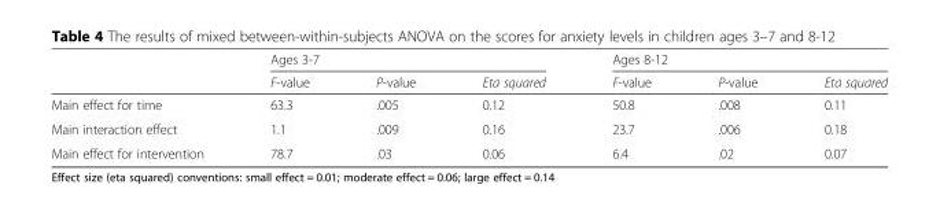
<table><thead><tr><td rowspan="2"></td><td colspan="3">Ages 3-7</td><td colspan="3">Ages 8-12</td></tr><tr><td>F-value</td><td>P-value</td><td>Eta squared</td><td>F-value</td><td>P-value</td><td>Eta squared</td></tr></thead><tbody><tr><td>Main effect for time</td><td>63.3</td><td>.005</td><td>0.12</td><td>50.8</td><td>.008</td><td>0.11</td></tr><tr><td>Main interaction effect</td><td>1.1</td><td>.009</td><td>0.16</td><td>23.7</td><td>.006</td><td>0.18</td></tr><tr><td>Main effect for intervention</td><td>78.7</td><td>.03</td><td>0.06</td><td>6.4</td><td>.02</td><td>0.07</td></tr></tbody></table>